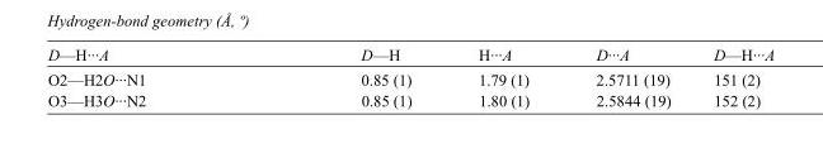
<table><tbody><tr><td>D—H···A</td><td>D—H</td><td>H···A</td><td>D···A</td><td>D—H···A</td></tr><tr><td>O2—H2O···N1</td><td>0.85 (1)</td><td>1.79 (1)</td><td>2.5711 (19)</td><td>151 (2)</td></tr><tr><td>O3—H3O···N2</td><td>0.85 (1)</td><td>1.80 (1)</td><td>2.5844 (19)</td><td>152 (2)</td></tr></tbody></table>